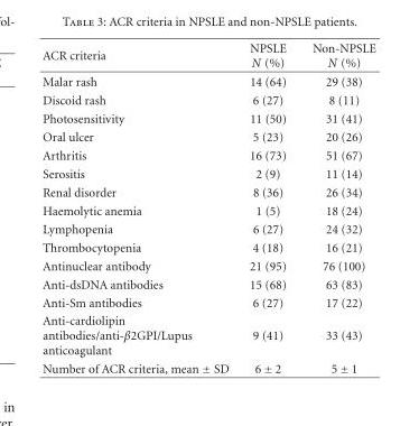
<table><thead><tr><td>ACR criteria</td><td>NPSLE N (%)</td><td>Non-NPSLE N (%)</td></tr></thead><tbody><tr><td>Malar rash</td><td>14 (64)</td><td>29 (38)</td></tr><tr><td>Discoid rash</td><td>6 (27)</td><td>8 (11)</td></tr><tr><td>Photosensitivity</td><td>11 (50)</td><td>31 (41)</td></tr><tr><td>Oral ulcer</td><td>5 (23)</td><td>20 (26)</td></tr><tr><td>Arthritis</td><td>16 (73)</td><td>51 (67)</td></tr><tr><td>Serositis</td><td>2 (9)</td><td>11 (14)</td></tr><tr><td>Renal disorder</td><td>8 (36)</td><td>26 (34)</td></tr><tr><td>Haemolytic anemia</td><td>1 (5)</td><td>18 (24)</td></tr><tr><td>Lymphopenia</td><td>6 (27)</td><td>24 (32)</td></tr><tr><td>Thrombocytopenia</td><td>4 (18)</td><td>16 (21)</td></tr><tr><td>Antinuclear antibody</td><td>21 (95)</td><td>76 (100)</td></tr><tr><td>Anti-dsDNA antibodies</td><td>15 (68)</td><td>63 (83)</td></tr><tr><td>Anti-Sm antibodies</td><td>6 (27)</td><td>17 (22)</td></tr><tr><td>Anti-cardiolipin antibodies/anti-β2GPI/Lupus anticoagulant</td><td>9 (41)</td><td>33 (43)</td></tr><tr><td>Number of ACR criteria, mean ± SD</td><td>6 ± 2</td><td>5 ± 1</td></tr></tbody></table>